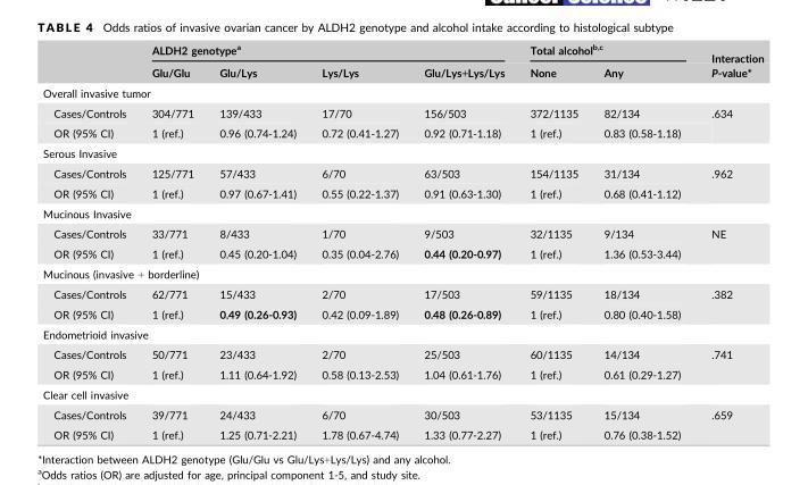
<table><thead><tr><td rowspan="2"></td><td colspan="4">ALDH2 genotype<sup>a</sup></td><td colspan="2">Total alcoholb,c</td><td rowspan="2">Interaction P-value*</td></tr><tr><td>Glu/Glu</td><td>Glu/Lys</td><td>Lys/Lys</td><td>Glu/Lys+Lys/Lys</td><td>None</td><td>Any</td></tr></thead><tbody><tr><td colspan="8">Overall invasive tumor</td></tr><tr><td>Cases/Controls</td><td>304/771</td><td>139/433</td><td>17/70</td><td>156/503</td><td>372/1135</td><td>82/134</td><td rowspan="2">.634</td></tr><tr><td>OR (95% CI)</td><td>1 (ref.)</td><td>0.96 (0.74-1.24)</td><td>0.72 (0.41-1.27)</td><td>0.92 (0.71-1.18)</td><td>1 (ref.)</td><td>0.83 (0.58-1.18)</td></tr><tr><td colspan="8">Serous Invasive</td></tr><tr><td>Cases/Controls</td><td>125/771</td><td>57/433</td><td>6/70</td><td>63/503</td><td>154/1135</td><td>31/134</td><td rowspan="2">.962</td></tr><tr><td>OR (95% CI)</td><td>1 (ref.)</td><td>0.97 (0.67-1.41)</td><td>0.55 (0.22-1.37)</td><td>0.91 (0.63-1.30)</td><td>1 (ref.)</td><td>0.68 (0.41-1.12)</td></tr><tr><td colspan="8">Mucinous Invasive</td></tr><tr><td>Cases/Controls</td><td>33/771</td><td>8/433</td><td>1/70</td><td>9/503</td><td>32/1135</td><td>9/134</td><td rowspan="2">NE</td></tr><tr><td>OR (95% CI)</td><td>1 (ref.)</td><td>0.45 (0.20-1.04)</td><td>0.35 (0.04-2.76)</td><td>0.44 (0.20-0.97)</td><td>1 (ref.)</td><td>1.36 (0.53-3.44)</td></tr><tr><td colspan="8">Mucinous (invasive + borderline)</td></tr><tr><td>Cases/Controls</td><td>62/771</td><td>15/433</td><td>2/70</td><td>17/503</td><td>59/1135</td><td>18/134</td><td rowspan="2">.382</td></tr><tr><td>OR (95% CI)</td><td>1 (ref.)</td><td>0.49 (0.26-0.93)</td><td>0.42 (0.09-1.89)</td><td>0.48 (0.26-0.89)</td><td>1 (ref.)</td><td>0.80 (0.40-1.58)</td></tr><tr><td colspan="8">Endometrioid invasive</td></tr><tr><td>Cases/Controls</td><td>50/771</td><td>23/433</td><td>2/70</td><td>25/503</td><td>60/1135</td><td>14/134</td><td rowspan="2">.741</td></tr><tr><td>OR (95% CI)</td><td>1 (ref.)</td><td>1.11 (0.64-1.92)</td><td>0.58 (0.13-2.53)</td><td>1.04 (0.61-1.76)</td><td>1 (ref.)</td><td>0.61 (0.29-1.27)</td></tr><tr><td colspan="8">Clear cell invasive</td></tr><tr><td>Cases/Controls</td><td>39/771</td><td>24/433</td><td>6/70</td><td>30/503</td><td>53/1135</td><td>15/134</td><td rowspan="2">.659</td></tr><tr><td>OR (95% CI)</td><td>1 (ref.)</td><td>1.25 (0.71-2.21)</td><td>1.78 (0.67-4.74)</td><td>1.33 (0.77-2.27)</td><td>1 (ref.)</td><td>0.76 (0.38-1.52)</td></tr></tbody></table>